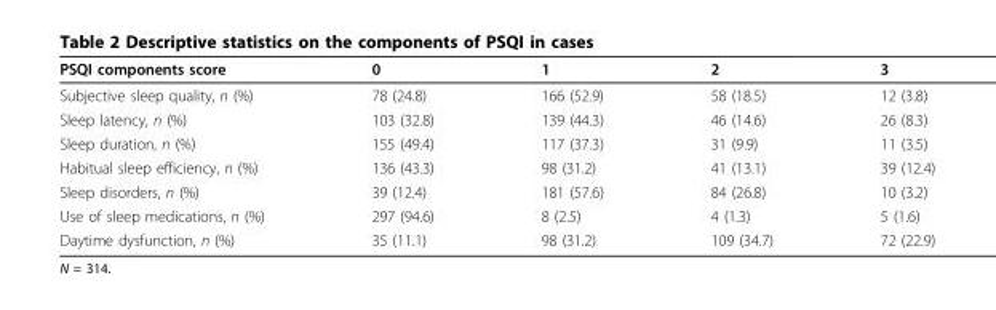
<table><thead><tr><td>PSQI components score</td><td>0</td><td>1</td><td>2</td><td>3</td></tr></thead><tbody><tr><td>Subjective sleep quality, n (%)</td><td>78 (24.8)</td><td>166 (52.9)</td><td>58 (18.5)</td><td>12 (3.8)</td></tr><tr><td>Sleep latency, n (%)</td><td>103 (32.8)</td><td>139 (44.3)</td><td>46 (14.6)</td><td>26 (8.3)</td></tr><tr><td>Sleep duration, n (%)</td><td>155 (49.4)</td><td>117 (37.3)</td><td>31 (9.9)</td><td>11 (3.5)</td></tr><tr><td>Habitual sleep efficiency, n (%)</td><td>136 (43.3)</td><td>98 (31.2)</td><td>41 (13.1)</td><td>39 (12.4)</td></tr><tr><td>Sleep disorders, n (%)</td><td>39 (12.4)</td><td>181 (57.6)</td><td>84 (26.8)</td><td>10 (3.2)</td></tr><tr><td>Use of sleep medications, n (%)</td><td>297 (94.6)</td><td>8 (2.5)</td><td>4 (1.3)</td><td>5 (1.6)</td></tr><tr><td>Daytime dysfunction, n (%)</td><td>35 (11.1)</td><td>98 (31.2)</td><td>109 (34.7)</td><td>72 (22.9)</td></tr></tbody></table>